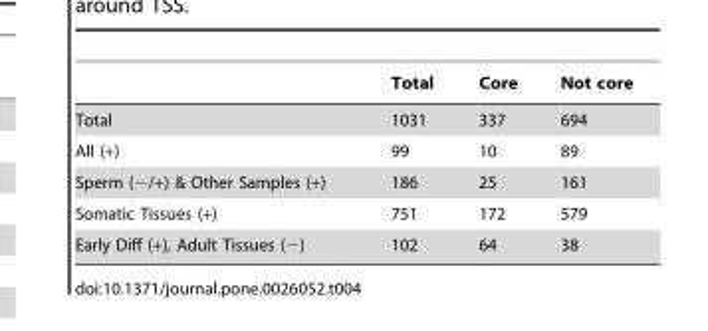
<table><thead><tr><td></td><td>Total</td><td>Core</td><td>Not core</td></tr></thead><tbody><tr><td>Total</td><td>1031</td><td>337</td><td>694</td></tr><tr><td>All (+)</td><td>99</td><td>10</td><td>89</td></tr><tr><td>Sperm (−/+) &amp; Other Samples (+)</td><td>186</td><td>25</td><td>161</td></tr><tr><td>Somatic Tissues (+)</td><td>751</td><td>172</td><td>579</td></tr><tr><td>Early Diff (+), Adult Tissues (−)</td><td>102</td><td>64</td><td>38</td></tr></tbody></table>